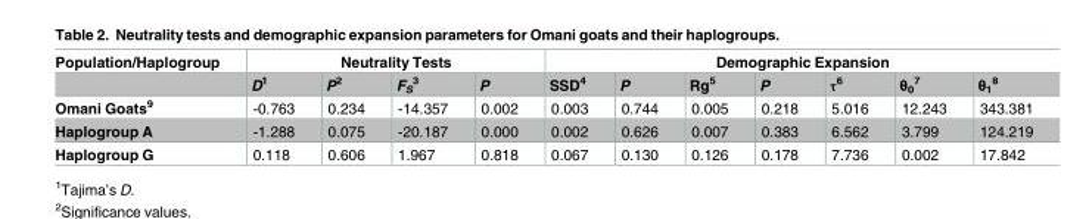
<table><thead><tr><td rowspan="2">Population/Haplogroup</td><td colspan="4">Neutrality Tests</td><td colspan="7">Demographic Expansion</td></tr><tr><td>D<sup>1</sup></td><td>P<sup>2</sup></td><td>F<sub>S</sub> <sup>3</sup></td><td>P</td><td>SSD<sup>4</sup></td><td>P</td><td>Rg<sup>5</sup></td><td>P</td><td>τ<sup>6</sup></td><td>θ<sub>0</sub> <sup>7</sup></td><td>θ<sub>1</sub> <sup>8</sup></td></tr></thead><tbody><tr><td>Omani Goats9</td><td>-0.763</td><td>0.234</td><td>-14.357</td><td>0.002</td><td>0.003</td><td>0.744</td><td>0.005</td><td>0.218</td><td>5.016</td><td>12.243</td><td>343.381</td></tr><tr><td>Haplogroup A</td><td>-1.288</td><td>0.075</td><td>-20.187</td><td>0.000</td><td>0.002</td><td>0.626</td><td>0.007</td><td>0.383</td><td>6.562</td><td>3.799</td><td>124.219</td></tr><tr><td>Haplogroup G</td><td>0.118</td><td>0.606</td><td>1.967</td><td>0.818</td><td>0.067</td><td>0.130</td><td>0.126</td><td>0.178</td><td>7.736</td><td>0.002</td><td>17.842</td></tr></tbody></table>